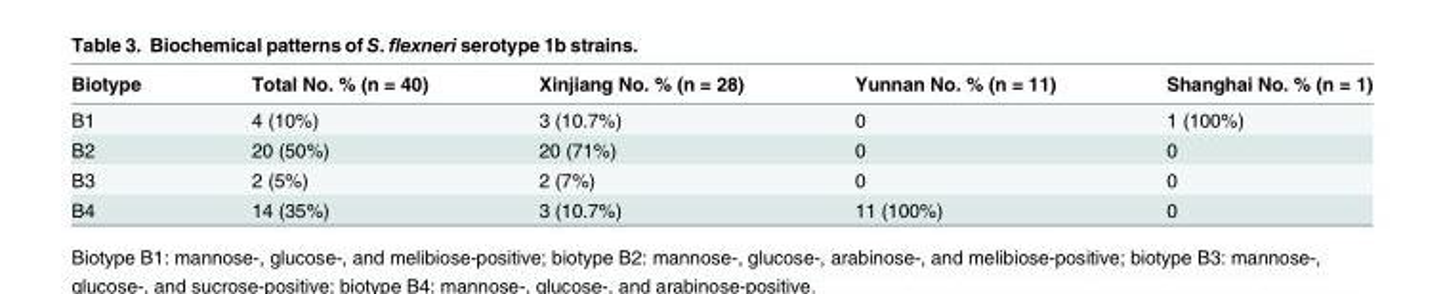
<table><thead><tr><td>Biotype</td><td>Total No. % (n = 40)</td><td>Xinjiang No. % (n = 28)</td><td>Yunnan No. % (n = 11)</td><td>Shanghai No. % (n = 1)</td></tr></thead><tbody><tr><td>B1</td><td>4 (10%)</td><td>3 (10.7%)</td><td>0</td><td>1 (100%)</td></tr><tr><td>B2</td><td>20 (50%)</td><td>20 (71%)</td><td>0</td><td>0</td></tr><tr><td>B3</td><td>2 (5%)</td><td>2 (7%)</td><td>0</td><td>0</td></tr><tr><td>B4</td><td>14 (35%)</td><td>3 (10.7%)</td><td>11 (100%)</td><td>0</td></tr></tbody></table>